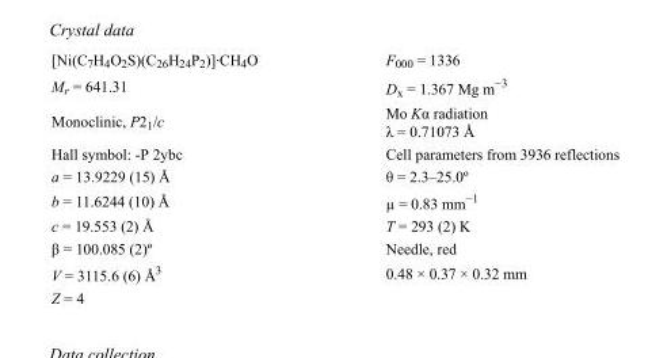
<table><tbody><tr><td>[Ni(C<sub>7</sub>H<sub>4</sub>O<sub>2</sub>S)(C<sub>26</sub>H<sub>24</sub>P<sub>2</sub>)]·CH<sub>4</sub>O</td><td>F000 = 1336</td></tr><tr><td>M<sub>r</sub> = 641.31</td><td>D<sub>x</sub> = 1.367 Mg m<sup>−3</sup></td></tr><tr><td>Monoclinic, P2<sub>1</sub>/c</td><td>Mo Kα radiation λ = 0.71073 Å</td></tr><tr><td>Hall symbol: -P 2ybc</td><td>Cell parameters from 3936 reflections</td></tr><tr><td>a = 13.9229 (15) Å</td><td>θ = 2.3–25.0º</td></tr><tr><td>b = 11.6244 (10) Å</td><td>µ = 0.83 mm<sup>−1</sup></td></tr><tr><td>c = 19.553 (2) Å</td><td>T = 293 (2) K</td></tr><tr><td>β = 100.085 (2)º</td><td>Needle, red</td></tr><tr><td>V = 3115.6 (6) Å<sup>3</sup></td><td>0.48 × 0.37 × 0.32 mm</td></tr><tr><td>Z = 4</td><td></td></tr></tbody></table>